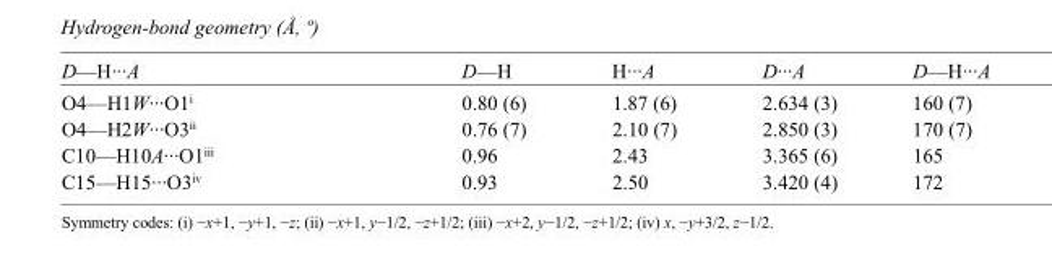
<table><tbody><tr><td>D—H···A</td><td>D—H</td><td>H···A</td><td>D···A</td><td>D—H···A</td></tr><tr><td>O4—H1W···O1<sup>i</sup></td><td>0.80 (6)</td><td>1.87 (6)</td><td>2.634 (3)</td><td>160 (7)</td></tr><tr><td>O4—H2W···O3<sup>ii</sup></td><td>0.76 (7)</td><td>2.10 (7)</td><td>2.850 (3)</td><td>170 (7)</td></tr><tr><td>C10—H10A···O1<sup>iii</sup></td><td>0.96</td><td>2.43</td><td>3.365 (6)</td><td>165</td></tr><tr><td>C15—H15···O3<sup>iv</sup></td><td>0.93</td><td>2.50</td><td>3.420 (4)</td><td>172</td></tr></tbody></table>